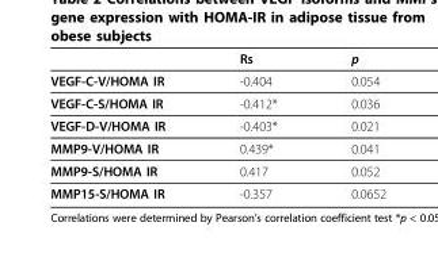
<table><thead><tr><td></td><td>Rs</td><td>p</td></tr></thead><tbody><tr><td>VEGF-C-V/HOMA IR</td><td>-0.404</td><td>0.054</td></tr><tr><td>VEGF-C-S/HOMA IR</td><td>-0.412*</td><td>0.036</td></tr><tr><td>VEGF-D-V/HOMA IR</td><td>-0.403*</td><td>0.021</td></tr><tr><td>MMP9-V/HOMA IR</td><td>0.439*</td><td>0.041</td></tr><tr><td>MMP9-S/HOMA IR</td><td>0.417</td><td>0.052</td></tr><tr><td>MMP15-S/HOMA IR</td><td>-0.357</td><td>0.0652</td></tr></tbody></table>